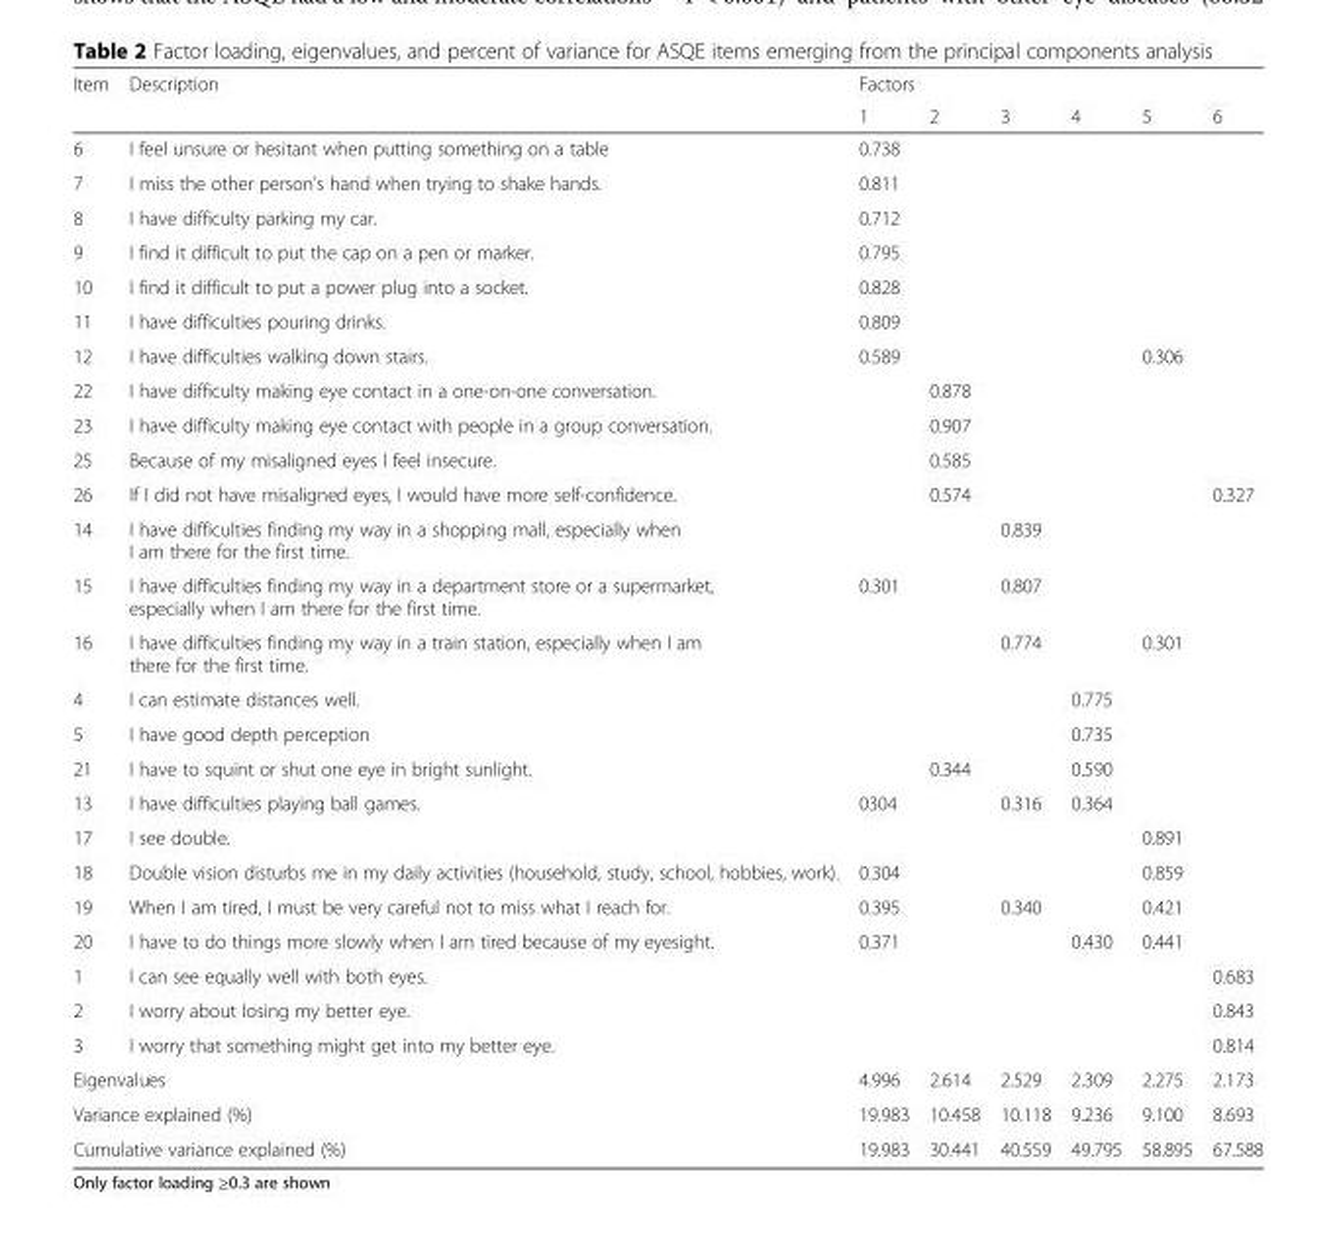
<table><thead><tr><td rowspan="2">Item</td><td rowspan="2">Description</td><td colspan="6">Factors</td></tr><tr><td>1</td><td>2</td><td>3</td><td>4</td><td>5</td><td>6</td></tr></thead><tbody><tr><td>6</td><td>I feel unsure or hesitant when putting something on a table</td><td>0.738</td><td></td><td></td><td></td><td></td><td></td></tr><tr><td>7</td><td>I miss the other person’s hand when trying to shake hands.</td><td>0.811</td><td></td><td></td><td></td><td></td><td></td></tr><tr><td>8</td><td>I have difficulty parking my car.</td><td>0.712</td><td></td><td></td><td></td><td></td><td></td></tr><tr><td>9</td><td>I find it difficult to put the cap on a pen or marker.</td><td>0.795</td><td></td><td></td><td></td><td></td><td></td></tr><tr><td>10</td><td>I find it difficult to put a power plug into a socket.</td><td>0.828</td><td></td><td></td><td></td><td></td><td></td></tr><tr><td>11</td><td>I have difficulties pouring drinks.</td><td>0.809</td><td></td><td></td><td></td><td></td><td></td></tr><tr><td>12</td><td>I have difficulties walking down stairs.</td><td>0.589</td><td></td><td></td><td></td><td>0.306</td><td></td></tr><tr><td>22</td><td>I have difficulty making eye contact in a one-on-one conversation.</td><td></td><td>0.878</td><td></td><td></td><td></td><td></td></tr><tr><td>23</td><td>I have difficulty making eye contact with people in a group conversation.</td><td></td><td>0.907</td><td></td><td></td><td></td><td></td></tr><tr><td>25</td><td>Because of my misaligned eyes I feel insecure.</td><td></td><td>0.585</td><td></td><td></td><td></td><td></td></tr><tr><td>26</td><td>If I did not have misaligned eyes, I would have more self-confidence.</td><td></td><td>0.574</td><td></td><td></td><td></td><td>0.327</td></tr><tr><td>14</td><td>I have difficulties finding my way in a shopping mall, especially when I am there for the first time.</td><td></td><td></td><td>0.839</td><td></td><td></td><td></td></tr><tr><td>15</td><td>I have difficulties finding my way in a department store or a supermarket, especially when I am there for the first time.</td><td>0.301</td><td></td><td>0.807</td><td></td><td></td><td></td></tr><tr><td>16</td><td>I have difficulties finding my way in a train station, especially when I am there for the first time.</td><td></td><td></td><td>0.774</td><td></td><td>0.301</td><td></td></tr><tr><td>4</td><td>I can estimate distances well.</td><td></td><td></td><td></td><td>0.775</td><td></td><td></td></tr><tr><td>5</td><td>I have good depth perception</td><td></td><td></td><td></td><td>0.735</td><td></td><td></td></tr><tr><td>21</td><td>I have to squint or shut one eye in bright sunlight.</td><td></td><td>0.344</td><td></td><td>0.590</td><td></td><td></td></tr><tr><td>13</td><td>I have difficulties playing ball games.</td><td>0304</td><td></td><td>0.316</td><td>0.364</td><td></td><td></td></tr><tr><td>17</td><td>I see double.</td><td></td><td></td><td></td><td></td><td>0.891</td><td></td></tr><tr><td>18</td><td>Double vision disturbs me in my daily activities (household, study, school, hobbies, work).</td><td>0.304</td><td></td><td></td><td></td><td>0.859</td><td></td></tr><tr><td>19</td><td>When I am tired, I must be very careful not to miss what I reach for.</td><td>0.395</td><td></td><td>0.340</td><td></td><td>0.421</td><td></td></tr><tr><td>20</td><td>I have to do things more slowly when I am tired because of my eyesight.</td><td>0.371</td><td></td><td></td><td>0.430</td><td>0.441</td><td></td></tr><tr><td>1</td><td>I can see equally well with both eyes.</td><td></td><td></td><td></td><td></td><td></td><td>0.683</td></tr><tr><td>2</td><td>I worry about losing my better eye.</td><td></td><td></td><td></td><td></td><td></td><td>0.843</td></tr><tr><td>3</td><td>I worry that something might get into my better eye.</td><td></td><td></td><td></td><td></td><td></td><td>0.814</td></tr><tr><td colspan="2">Eigenvalues</td><td>4.996</td><td>2.614</td><td>2.529</td><td>2.309</td><td>2.275</td><td>2.173</td></tr><tr><td colspan="2">Variance explained (%)</td><td>19.983</td><td>10.458</td><td>10.118</td><td>9.236</td><td>9.100</td><td>8.693</td></tr><tr><td colspan="2">Cumulative variance explained (%)</td><td>19.983</td><td>30.441</td><td>40.559</td><td>49.795</td><td>58.895</td><td>67.588</td></tr></tbody></table>